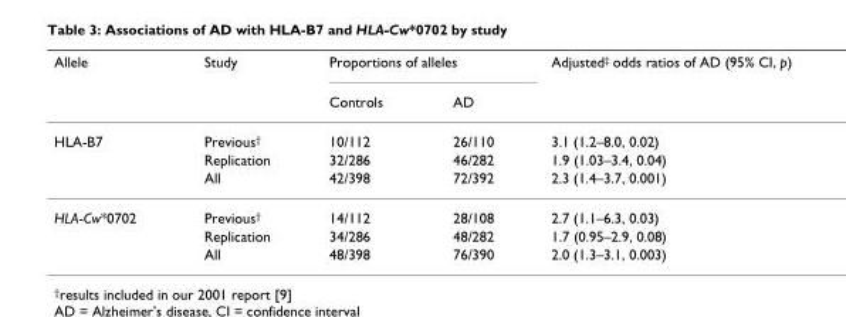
<table><thead><tr><td rowspan="2">Allele</td><td rowspan="2">Study</td><td colspan="2">Proportions of alleles</td><td rowspan="2">Adjusted<sup>‡</sup> odds ratios of AD (95% CI, p)</td></tr><tr><td>Controls</td><td>AD</td></tr></thead><tbody><tr><td rowspan="3">HLA-B7</td><td>Previous<sup>†</sup></td><td>10/112</td><td>26/110</td><td>3.1 (1.2–8.0, 0.02)</td></tr><tr><td>Replication</td><td>32/286</td><td>46/282</td><td>1.9 (1.03–3.4, 0.04)</td></tr><tr><td>All</td><td>42/398</td><td>72/392</td><td>2.3 (1.4–3.7, 0.001)</td></tr><tr><td rowspan="3">HLA-Cw*0702</td><td>Previous<sup>†</sup></td><td>14/112</td><td>28/108</td><td>2.7 (1.1–6.3, 0.03)</td></tr><tr><td>Replication</td><td>34/286</td><td>48/282</td><td>1.7 (0.95–2.9, 0.08)</td></tr><tr><td>All</td><td>48/398</td><td>76/390</td><td>2.0 (1.3–3.1, 0.003)</td></tr></tbody></table>